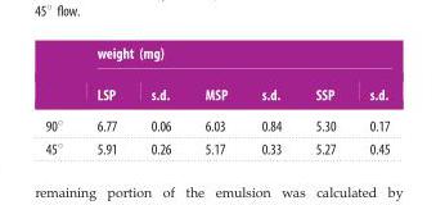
<table><thead><tr><td rowspan="2"></td><td colspan="6">weight (mg)</td></tr><tr><td>LSP</td><td>s.d.</td><td>MSP</td><td>s.d.</td><td>SSP</td><td>s.d.</td></tr></thead><tbody><tr><td>90°</td><td>6.77</td><td>0.06</td><td>6.03</td><td>0.84</td><td>5.30</td><td>0.17</td></tr><tr><td>45°</td><td>5.91</td><td>0.26</td><td>5.17</td><td>0.33</td><td>5.27</td><td>0.45</td></tr></tbody></table>